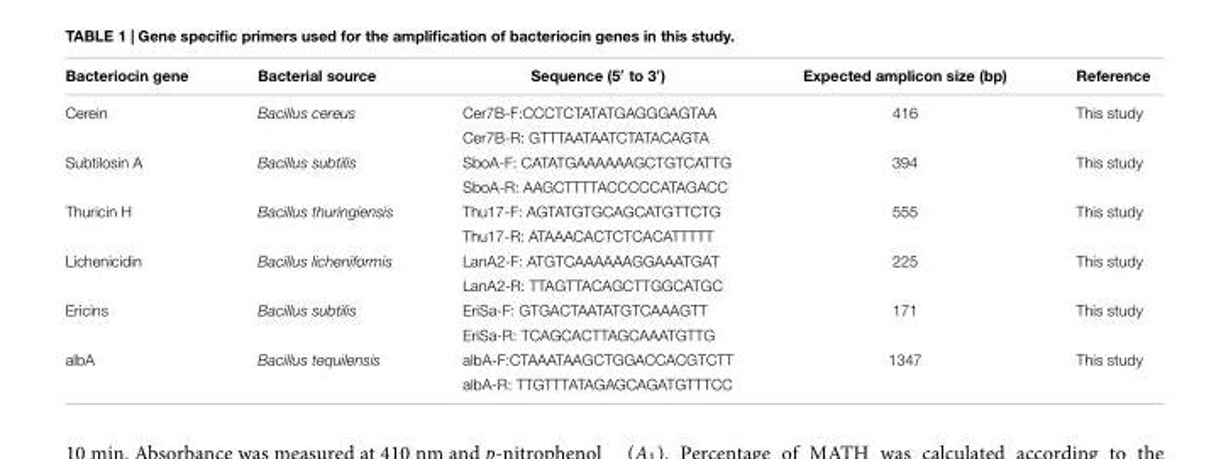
<table><thead><tr><td>Bacteriocin gene</td><td>Bacterial source</td><td>Sequence (5′ to 3′)</td><td>Expected amplicon size (bp)</td><td>Reference</td></tr></thead><tbody><tr><td rowspan="2">Cerein</td><td>Bacillus cereus</td><td>Cer7B-F:CCCTCTATATGAGGGAGTAA</td><td>416</td><td>This study</td></tr><tr><td></td><td>Cer7B-R: GTTTAATAATCTATACAGTA</td><td></td><td></td></tr><tr><td rowspan="2">Subtilosin A</td><td>Bacillus subtilis</td><td>SboA-F: CATATGAAAAAAGCTGTCATTG</td><td>394</td><td>This study</td></tr><tr><td></td><td>SboA-R: AAGCTTTTACCCCCATAGACC</td><td></td><td></td></tr><tr><td rowspan="2">Thuricin H</td><td>Bacillus thuringiensis</td><td>Thu17-F: AGTATGTGCAGCATGTTCTG</td><td>555</td><td>This study</td></tr><tr><td></td><td>Thu17-R: ATAAACACTCTCACATTTTT</td><td></td><td></td></tr><tr><td rowspan="2">Lichenicidin</td><td>Bacillus licheniformis</td><td>LanA2-F: ATGTCAAAAAAGGAAATGAT</td><td>225</td><td>This study</td></tr><tr><td></td><td>LanA2-R: TTAGTTACAGCTTGGCATGC</td><td></td><td></td></tr><tr><td rowspan="2">Ericins</td><td>Bacillus subtilis</td><td>EriSa-F: GTGACTAATATGTCAAAGTT</td><td>171</td><td>This study</td></tr><tr><td></td><td>EriSa-R: TCAGCACTTAGCAAATGTTG</td><td></td><td></td></tr><tr><td rowspan="2">albA</td><td>Bacillus tequilensis</td><td>albA-F:CTAAATAAGCTGGACCACGTCTT</td><td>1347</td><td>This study</td></tr><tr><td></td><td>albA-R: TTGTTTATAGAGCAGATGTTTCC</td><td></td><td></td></tr></tbody></table>